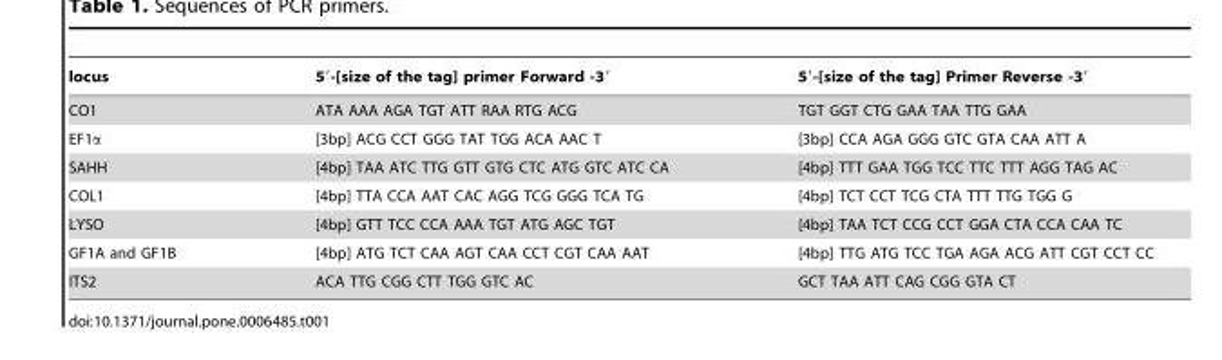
<table><thead><tr><td>locus</td><td>5′-[size of the tag] primer Forward -3′</td><td>5′-[size of the tag] Primer Reverse -3′</td></tr></thead><tbody><tr><td>CO1</td><td>ATA AAA AGA TGT ATT RAA RTG ACG</td><td>TGT GGT CTG GAA TAA TTG GAA</td></tr><tr><td>EF1α</td><td>[3bp] ACG CCT GGG TAT TGG ACA AAC T</td><td>[3bp] CCA AGA GGG GTC GTA CAA ATT A</td></tr><tr><td>SAHH</td><td>[4bp] TAA ATC TTG GTT GTG CTC ATG GTC ATC CA</td><td>[4bp] TTT GAA TGG TCC TTC TTT AGG TAG AC</td></tr><tr><td>COL1</td><td>[4bp] TTA CCA AAT CAC AGG TCG GGG TCA TG</td><td>[4bp] TCT CCT TCG CTA TTT TTG TGG G</td></tr><tr><td>LYSO</td><td>[4bp] GTT TCC CCA AAA TGT ATG AGC TGT</td><td>[4bp] TAA TCT CCG CCT GGA CTA CCA CAA TC</td></tr><tr><td>GF1A and GF1B</td><td>[4bp] ATG TCT CAA AGT CAA CCT CGT CAA AAT</td><td>[4bp] TTG ATG TCC TGA AGA ACG ATT CGT CCT CC</td></tr><tr><td>ITS2</td><td>ACA TTG CGG CTT TGG GTC AC</td><td>GCT TAA ATT CAG CGG GTA CT</td></tr></tbody></table>